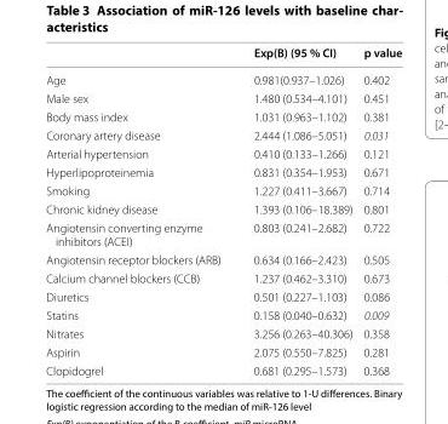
<table><thead><tr><td></td><td>Exp(B) (95 % CI)</td><td>p value</td></tr></thead><tbody><tr><td>Age</td><td>0.981(0.937–1.026)</td><td>0.402</td></tr><tr><td>Male sex</td><td>1.480 (0.534–4.101)</td><td>0.451</td></tr><tr><td>Body mass index</td><td>1.031 (0.963–1.102)</td><td>0.381</td></tr><tr><td>Coronary artery disease</td><td>2.444 (1.086–5.051)</td><td>0.031</td></tr><tr><td>Arterial hypertension</td><td>0.410 (0.133–1.266)</td><td>0.121</td></tr><tr><td>Hyperlipoproteinemia</td><td>0.831 (0.354–1.953)</td><td>0.671</td></tr><tr><td>Smoking</td><td>1.227 (0.411–3.667)</td><td>0.714</td></tr><tr><td>Chronic kidney disease</td><td>1.393 (0.106–18.389)</td><td>0.801</td></tr><tr><td>Angiotensin converting enzyme inhibitors (ACEI)</td><td>0.803 (0.241–2.682)</td><td>0.722</td></tr><tr><td>Angiotensin receptor blockers (ARB)</td><td>0.634 (0.166–2.423)</td><td>0.505</td></tr><tr><td>Calcium channel blockers (CCB)</td><td>1.237 (0.462–3.310)</td><td>0.673</td></tr><tr><td>Diuretics</td><td>0.501 (0.227–1.103)</td><td>0.086</td></tr><tr><td>Statins</td><td>0.158 (0.040–0.632)</td><td>0.009</td></tr><tr><td>Nitrates</td><td>3.256 (0.263–40.306)</td><td>0.358</td></tr><tr><td>Aspirin</td><td>2.075 (0.550–7.825)</td><td>0.281</td></tr><tr><td>Clopidogrel</td><td>0.681 (0.295–1.573)</td><td>0.368</td></tr></tbody></table>